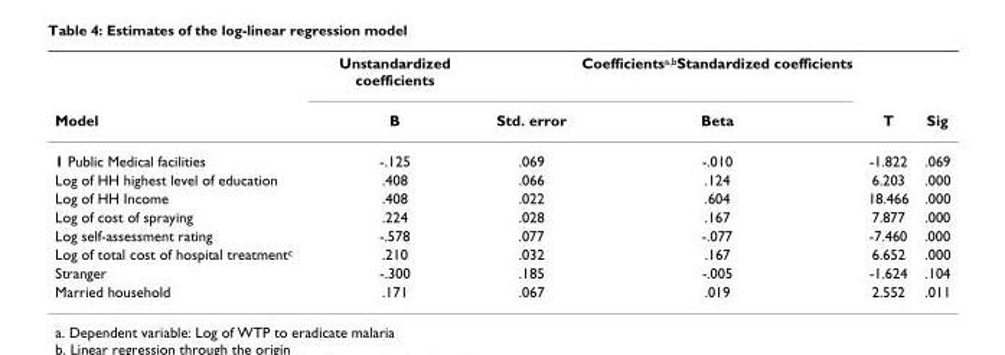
<table><thead><tr><td rowspan="2">Model</td><td rowspan="2">Unstandardized coefficients B</td><td rowspan="2">Std. error</td><td rowspan="2">Coefficients<sup>a,b</sup>Standardized coefficients Beta</td><td rowspan="2">T</td><td rowspan="2">Sig</td></tr><tr></tr></thead><tbody><tr><td>1 Public Medical facilities</td><td>-.125</td><td>.069</td><td>-.010</td><td>-1.822</td><td>.069</td></tr><tr><td>Log of HH highest level of education</td><td>.408</td><td>.066</td><td>.124</td><td>6.203</td><td>.000</td></tr><tr><td>Log of HH Income</td><td>.408</td><td>.022</td><td>.604</td><td>18.466</td><td>.000</td></tr><tr><td>Log of cost of spraying</td><td>.224</td><td>.028</td><td>.167</td><td>7.877</td><td>.000</td></tr><tr><td>Log self-assessment rating</td><td>-.578</td><td>.077</td><td>-.077</td><td>-7.460</td><td>.000</td></tr><tr><td>Log of total cost of hospital treatment<sup>c</sup></td><td>.210</td><td>.032</td><td>.167</td><td>6.652</td><td>.000</td></tr><tr><td>Stranger</td><td>-.300</td><td>.185</td><td>-.005</td><td>-1.624</td><td>.104</td></tr><tr><td>Married household</td><td>.171</td><td>.067</td><td>.019</td><td>2.552</td><td>.011</td></tr></tbody></table>